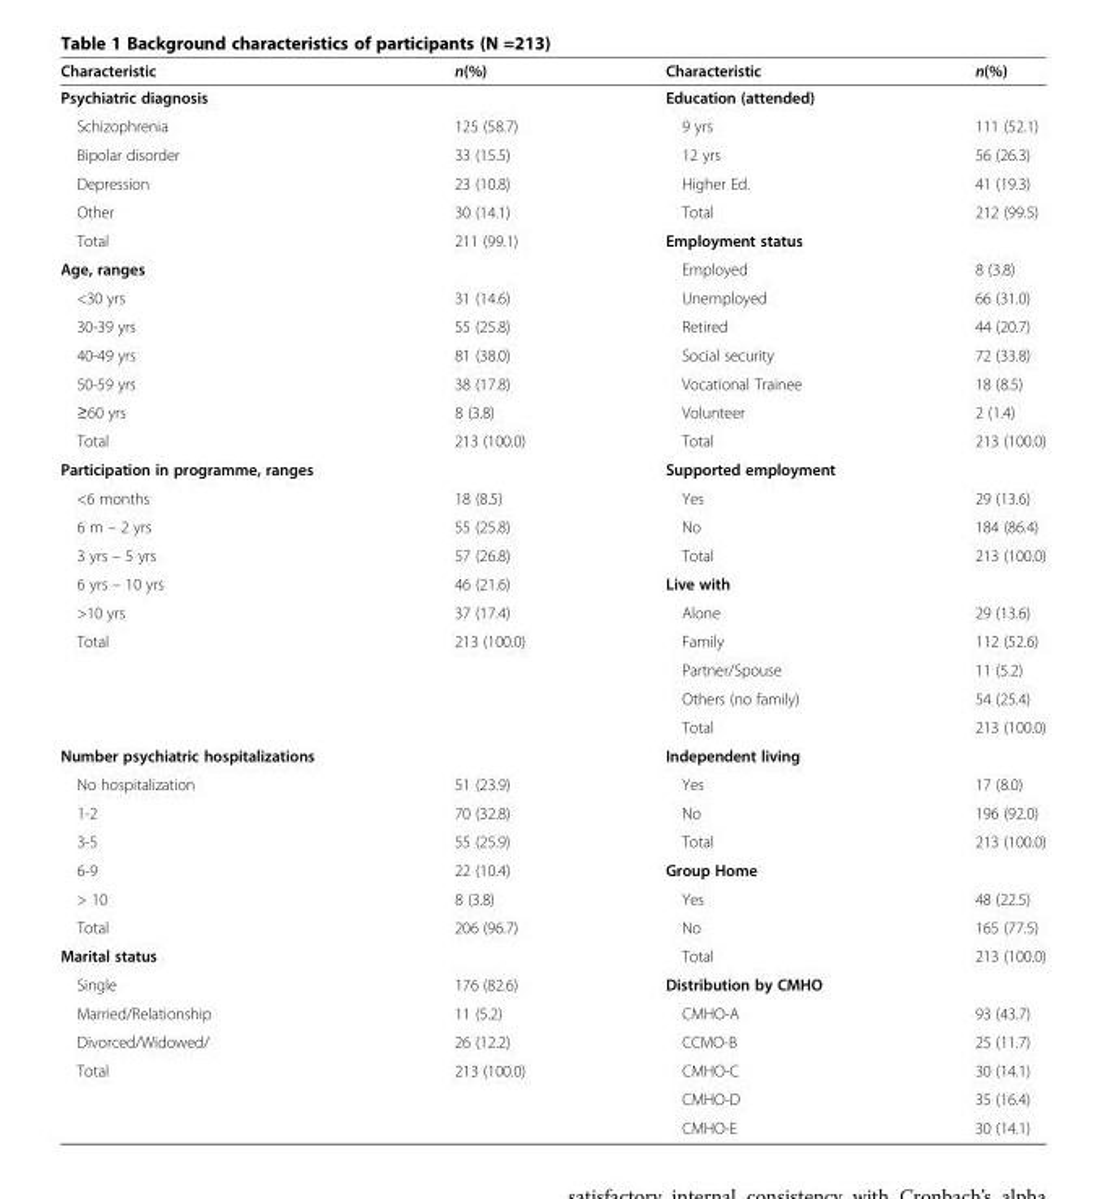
<table><thead><tr><td>Characteristic</td><td>n(%)</td><td>Characteristic</td><td>n(%)</td></tr></thead><tbody><tr><td>Psychiatric diagnosis</td><td></td><td>Education (attended)</td><td></td></tr><tr><td>Schizophrenia</td><td>125 (58.7)</td><td>9 yrs</td><td>111 (52.1)</td></tr><tr><td>Bipolar disorder</td><td>33 (15.5)</td><td>12 yrs</td><td>56 (26.3)</td></tr><tr><td>Depression</td><td>23 (10.8)</td><td>Higher Ed.</td><td>41 (19.3)</td></tr><tr><td>Other</td><td>30 (14.1)</td><td>Total</td><td>212 (99.5)</td></tr><tr><td>Total</td><td>211 (99.1)</td><td>Employment status</td><td></td></tr><tr><td>Age, ranges</td><td></td><td>Employed</td><td>8 (3.8)</td></tr><tr><td>&lt;30 yrs</td><td>31 (14.6)</td><td>Unemployed</td><td>66 (31.0)</td></tr><tr><td>30-39 yrs</td><td>55 (25.8)</td><td>Retired</td><td>44 (20.7)</td></tr><tr><td>40-49 yrs</td><td>81 (38.0)</td><td>Social security</td><td>72 (33.8)</td></tr><tr><td>50-59 yrs</td><td>38 (17.8)</td><td>Vocational Trainee</td><td>18 (8.5)</td></tr><tr><td>≥60 yrs</td><td>8 (3.8)</td><td>Volunteer</td><td>2 (1.4)</td></tr><tr><td>Total</td><td>213 (100.0)</td><td>Total</td><td>213 (100.0)</td></tr><tr><td>Participation in programme, ranges</td><td></td><td>Supported employment</td><td></td></tr><tr><td>&lt;6 months</td><td>18 (8.5)</td><td>Yes</td><td>29 (13.6)</td></tr><tr><td>6 m – 2 yrs</td><td>55 (25.8)</td><td>No</td><td>184 (86.4)</td></tr><tr><td>3 yrs – 5 yrs</td><td>57 (26.8)</td><td>Total</td><td>213 (100.0)</td></tr><tr><td>6 yrs – 10 yrs</td><td>46 (21.6)</td><td>Live with</td><td></td></tr><tr><td>&gt;10 yrs</td><td>37 (17.4)</td><td>Alone</td><td>29 (13.6)</td></tr><tr><td rowspan="4">Total</td><td>213 (100.0)</td><td>Family</td><td>112 (52.6)</td></tr><tr><td></td><td>Partner/Spouse</td><td>11 (5.2)</td></tr><tr><td></td><td>Others (no family)</td><td>54 (25.4)</td></tr><tr><td></td><td>Total</td><td>213 (100.0)</td></tr><tr><td>Number psychiatric hospitalizations</td><td></td><td>Independent living</td><td></td></tr><tr><td>No hospitalization</td><td>51 (23.9)</td><td>Yes</td><td>17 (8.0)</td></tr><tr><td>1-2</td><td>70 (32.8)</td><td>No</td><td>196 (92.0)</td></tr><tr><td>3-5</td><td>55 (25.9)</td><td>Total</td><td>213 (100.0)</td></tr><tr><td>6-9</td><td>22 (10.4)</td><td>Group Home</td><td></td></tr><tr><td>&gt; 10</td><td>8 (3.8)</td><td>Yes</td><td>48 (22.5)</td></tr><tr><td>Total</td><td>206 (96.7)</td><td>No</td><td>165 (77.5)</td></tr><tr><td>Marital status</td><td></td><td>Total</td><td>213 (100.0)</td></tr><tr><td>Single</td><td>176 (82.6)</td><td>Distribution by CMHO</td><td></td></tr><tr><td>Married/Relationship</td><td>11 (5.2)</td><td>CMHO-A</td><td>93 (43.7)</td></tr><tr><td>Divorced/Widowed/</td><td>26 (12.2)</td><td>CCMO-B</td><td>25 (11.7)</td></tr><tr><td rowspan="3">Total</td><td>213 (100.0)</td><td>CMHO-C</td><td>30 (14.1)</td></tr><tr><td></td><td>CMHO-D</td><td>35 (16.4)</td></tr><tr><td></td><td>CMHO-E</td><td>30 (14.1)</td></tr></tbody></table>